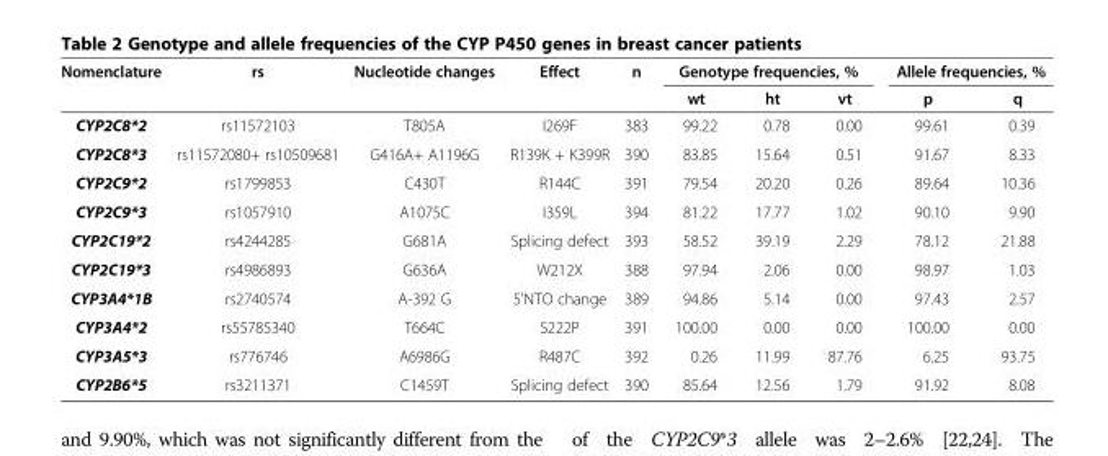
<table><thead><tr><td rowspan="2">Nomenclature</td><td rowspan="2">rs</td><td rowspan="2">Nucleotide changes</td><td rowspan="2">Effect</td><td rowspan="2">n</td><td colspan="3">Genotype frequencies, %</td><td colspan="2">Allele frequencies, %</td></tr><tr><td>wt</td><td>ht</td><td>vt</td><td>p</td><td>q</td></tr></thead><tbody><tr><td>CYP2C8*2</td><td>rs11572103</td><td>T805A</td><td>I269F</td><td>383</td><td>99.22</td><td>0.78</td><td>0.00</td><td>99.61</td><td>0.39</td></tr><tr><td>CYP2C8*3</td><td>rs11572080+ rs10509681</td><td>G416A+ A1196G</td><td>R139K + K399R</td><td>390</td><td>83.85</td><td>15.64</td><td>0.51</td><td>91.67</td><td>8.33</td></tr><tr><td>CYP2C9*2</td><td>rs1799853</td><td>C430T</td><td>R144C</td><td>391</td><td>79.54</td><td>20.20</td><td>0.26</td><td>89.64</td><td>10.36</td></tr><tr><td>CYP2C9*3</td><td>rs1057910</td><td>A1075C</td><td>I359L</td><td>394</td><td>81.22</td><td>17.77</td><td>1.02</td><td>90.10</td><td>9.90</td></tr><tr><td>CYP2C19*2</td><td>rs4244285</td><td>G681A</td><td>Splicing defect</td><td>393</td><td>58.52</td><td>39.19</td><td>2.29</td><td>78.12</td><td>21.88</td></tr><tr><td>CYP2C19*3</td><td>rs4986893</td><td>G636A</td><td>W212X</td><td>388</td><td>97.94</td><td>2.06</td><td>0.00</td><td>98.97</td><td>1.03</td></tr><tr><td>CYP3A4*1B</td><td>rs2740574</td><td>A-392 G</td><td>5&#x27;NTO change</td><td>389</td><td>94.86</td><td>5.14</td><td>0.00</td><td>97.43</td><td>2.57</td></tr><tr><td>CYP3A4*2</td><td>rs55785340</td><td>T664C</td><td>S222P</td><td>391</td><td>100.00</td><td>0.00</td><td>0.00</td><td>100.00</td><td>0.00</td></tr><tr><td>CYP3A5*3</td><td>rs776746</td><td>A6986G</td><td>R487C</td><td>392</td><td>0.26</td><td>11.99</td><td>87.76</td><td>6.25</td><td>93.75</td></tr><tr><td>CYP2B6*5</td><td>rs3211371</td><td>C1459T</td><td>Splicing defect</td><td>390</td><td>85.64</td><td>12.56</td><td>1.79</td><td>91.92</td><td>8.08</td></tr></tbody></table>